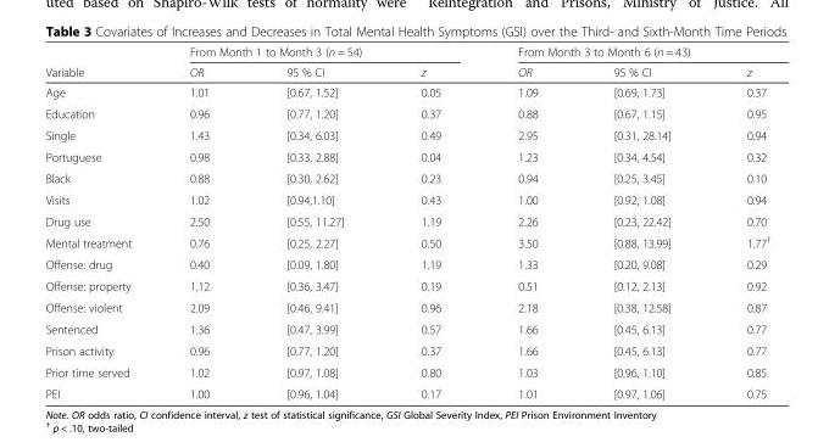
<table><thead><tr><td rowspan="2">Variable</td><td colspan="3">From Month 1 to Month 3 (n = 54)</td><td colspan="3">From Month 3 to Month 6 (n = 43)</td></tr><tr><td>OR</td><td>95 % CI</td><td>z</td><td>OR</td><td>95 % CI</td><td>z</td></tr></thead><tbody><tr><td>Age</td><td>1.01</td><td>[0.67, 1.52]</td><td>0.05</td><td>1.09</td><td>[0.69, 1.73]</td><td>0.37</td></tr><tr><td>Education</td><td>0.96</td><td>[0.77, 1.20]</td><td>0.37</td><td>0.88</td><td>[0.67, 1.15]</td><td>0.95</td></tr><tr><td>Single</td><td>1.43</td><td>[0.34, 6.03]</td><td>0.49</td><td>2.95</td><td>[0.31, 28.14]</td><td>0.94</td></tr><tr><td>Portuguese</td><td>0.98</td><td>[0.33, 2.88]</td><td>0.04</td><td>1.23</td><td>[0.34, 4.54]</td><td>0.32</td></tr><tr><td>Black</td><td>0.88</td><td>[0.30, 2.62]</td><td>0.23</td><td>0.94</td><td>[0.25, 3.45]</td><td>0.10</td></tr><tr><td>Visits</td><td>1.02</td><td>[0.94,1.10]</td><td>0.43</td><td>1.00</td><td>[0.92, 1.08]</td><td>0.94</td></tr><tr><td>Drug use</td><td>2.50</td><td>[0.55, 11.27]</td><td>1.19</td><td>2.26</td><td>[0.23, 22.42]</td><td>0.70</td></tr><tr><td>Mental treatment</td><td>0.76</td><td>[0.25, 2.27]</td><td>0.50</td><td>3.50</td><td>[0.88, 13.99]</td><td>1.77<sup>†</sup></td></tr><tr><td>Offense: drug</td><td>0.40</td><td>[0.09, 1.80]</td><td>1.19</td><td>1.33</td><td>[0.20, 9.08]</td><td>0.29</td></tr><tr><td>Offense: property</td><td>1.12</td><td>[0.36, 3.47]</td><td>0.19</td><td>0.51</td><td>[0.12, 2.13]</td><td>0.92</td></tr><tr><td>Offense: violent</td><td>2.09</td><td>[0.46, 9.41]</td><td>0.96</td><td>2.18</td><td>[0.38, 12.58]</td><td>0.87</td></tr><tr><td>Sentenced</td><td>1.36</td><td>[0.47, 3.99]</td><td>0.57</td><td>1.66</td><td>[0.45, 6.13]</td><td>0.77</td></tr><tr><td>Prison activity</td><td>0.96</td><td>[0.77, 1.20]</td><td>0.37</td><td>1.66</td><td>[0.45, 6.13]</td><td>0.77</td></tr><tr><td>Prior time served</td><td>1.02</td><td>[0.97, 1.08]</td><td>0.80</td><td>1.03</td><td>[0.96, 1.10]</td><td>0.85</td></tr><tr><td>PEI</td><td>1.00</td><td>[0.96, 1.04]</td><td>0.17</td><td>1.01</td><td>[0.97, 1.06]</td><td>0.75</td></tr></tbody></table>